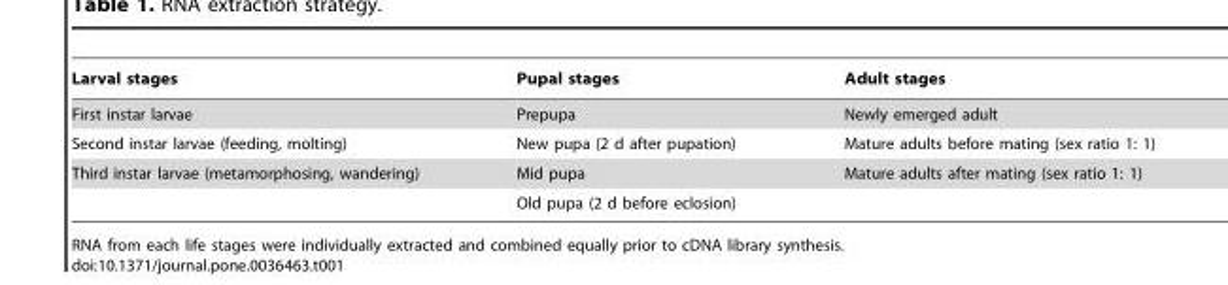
<table><thead><tr><td>Larval stages</td><td>Pupal stages</td><td>Adult stages</td></tr></thead><tbody><tr><td>First instar larvae</td><td>Prepupa</td><td>Newly emerged adult</td></tr><tr><td>Second instar larvae (feeding, molting)</td><td>New pupa (2 d after pupation)</td><td>Mature adults before mating (sex ratio 1: 1)</td></tr><tr><td rowspan="2">Third instar larvae (metamorphosing, wandering)</td><td>Mid pupa</td><td>Mature adults after mating (sex ratio 1: 1)</td></tr><tr><td>Old pupa (2 d before eclosion)</td><td></td></tr></tbody></table>